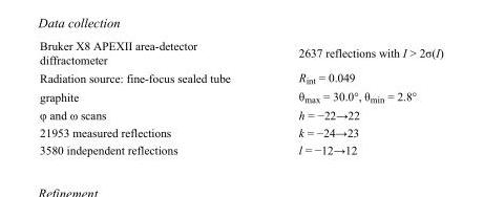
<table><tbody><tr><td>Bruker X8 APEXII area-detector diffractometer</td><td>2637 reflections with I &gt; 2σ(I)</td></tr><tr><td>Radiation source: fine-focus sealed tube</td><td>R<sub>int</sub> = 0.049</td></tr><tr><td>graphite</td><td>θ<sub>max</sub> = 30.0°, θ<sub>min</sub> = 2.8°</td></tr><tr><td>φ and ω scans</td><td>h = −22→22</td></tr><tr><td>21953 measured reflections</td><td>k = −24→23</td></tr><tr><td>3580 independent reflections</td><td>l = −12→12</td></tr></tbody></table>